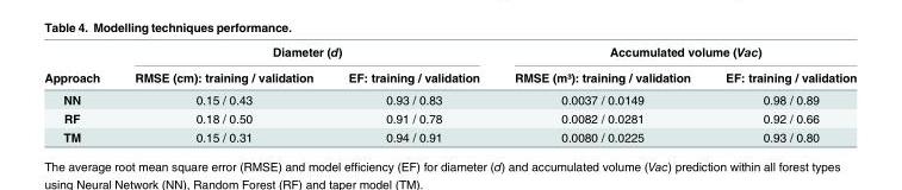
<table><thead><tr><td rowspan="2">Approach</td><td colspan="2">Diameter (d)</td><td colspan="2">Accumulated volume (Vac)</td></tr><tr><td>RMSE (cm): training / validation</td><td>EF: training / validation</td><td>RMSE (m³): training / validation</td><td>EF: training / validation</td></tr></thead><tbody><tr><td>NN</td><td>0.15 / 0.43</td><td>0.93 / 0.83</td><td>0.0037 / 0.0149</td><td>0.98 / 0.89</td></tr><tr><td>RF</td><td>0.18 / 0.50</td><td>0.91 / 0.78</td><td>0.0082 / 0.0281</td><td>0.92 / 0.66</td></tr><tr><td>TM</td><td>0.15 / 0.31</td><td>0.94 / 0.91</td><td>0.0080 / 0.0225</td><td>0.93 / 0.80</td></tr></tbody></table>